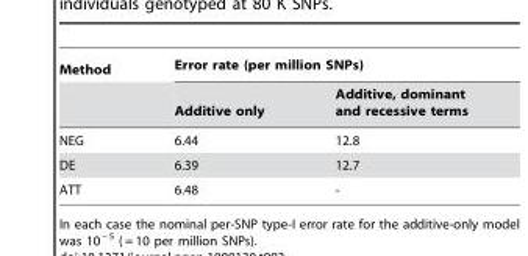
<table><thead><tr><td rowspan="2">Method</td><td colspan="2">Error rate (per million SNPs)</td></tr><tr><td>Additive only</td><td>Additive, dominant and recessive terms</td></tr></thead><tbody><tr><td>NEG</td><td>6.44</td><td>12.8</td></tr><tr><td>DE</td><td>6.39</td><td>12.7</td></tr><tr><td>ATT</td><td>6.48</td><td>-</td></tr></tbody></table>